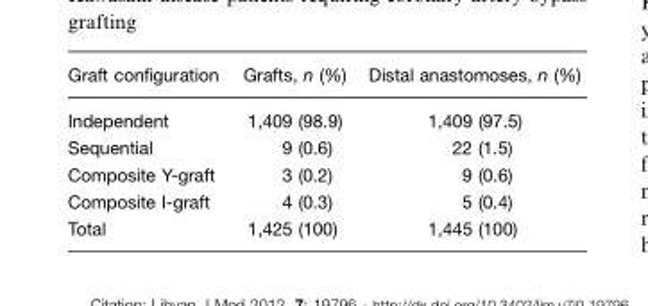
<table><thead><tr><td>Graft configuration</td><td>Grafts, n (%)</td><td>Distal anastomoses, n (%)</td></tr></thead><tbody><tr><td>Independent</td><td>1,409 (98.9)</td><td>1,409 (97.5)</td></tr><tr><td>Sequential</td><td>9 (0.6)</td><td>22 (1.5)</td></tr><tr><td>Composite Y-graft</td><td>3 (0.2)</td><td>9 (0.6)</td></tr><tr><td>Composite I-graft</td><td>4 (0.3)</td><td>5 (0.4)</td></tr><tr><td>Total</td><td>1,425 (100)</td><td>1,445 (100)</td></tr></tbody></table>